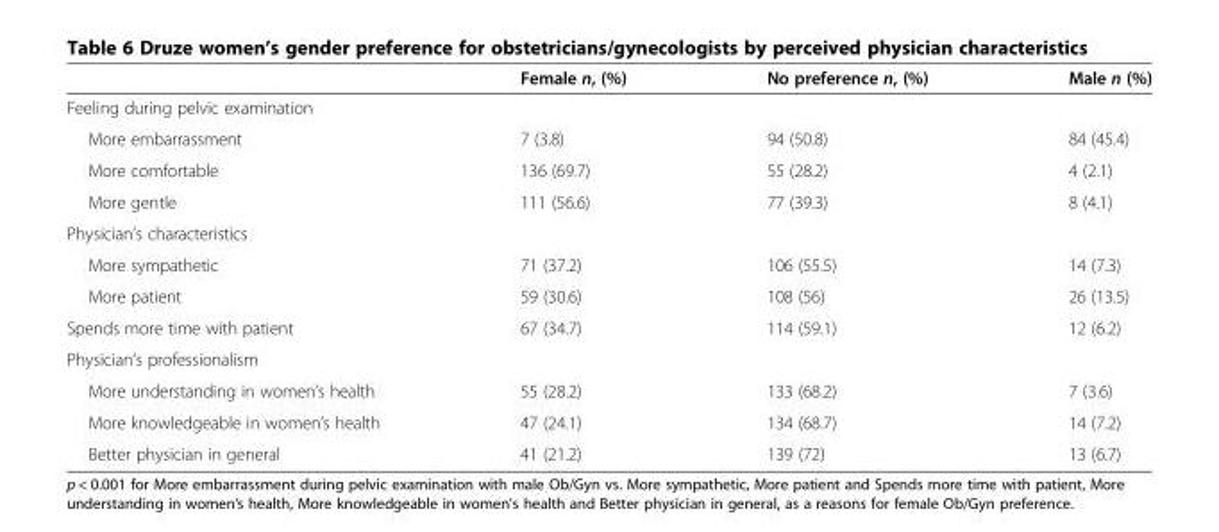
<table><thead><tr><td></td><td>Female n, (%)</td><td>No preference n, (%)</td><td>Male n (%)</td></tr></thead><tbody><tr><td colspan="4">Feeling during pelvic examination</td></tr><tr><td>More embarrassment</td><td>7 (3.8)</td><td>94 (50.8)</td><td>84 (45.4)</td></tr><tr><td>More comfortable</td><td>136 (69.7)</td><td>55 (28.2)</td><td>4 (2.1)</td></tr><tr><td>More gentle</td><td>111 (56.6)</td><td>77 (39.3)</td><td>8 (4.1)</td></tr><tr><td colspan="4">Physician’s characteristics</td></tr><tr><td>More sympathetic</td><td>71 (37.2)</td><td>106 (55.5)</td><td>14 (7.3)</td></tr><tr><td>More patient</td><td>59 (30.6)</td><td>108 (56)</td><td>26 (13.5)</td></tr><tr><td>Spends more time with patient</td><td>67 (34.7)</td><td>114 (59.1)</td><td>12 (6.2)</td></tr><tr><td colspan="4">Physician’s professionalism</td></tr><tr><td>More understanding in women’s health</td><td>55 (28.2)</td><td>133 (68.2)</td><td>7 (3.6)</td></tr><tr><td>More knowledgeable in women’s health</td><td>47 (24.1)</td><td>134 (68.7)</td><td>14 (7.2)</td></tr><tr><td>Better physician in general</td><td>41 (21.2)</td><td>139 (72)</td><td>13 (6.7)</td></tr></tbody></table>